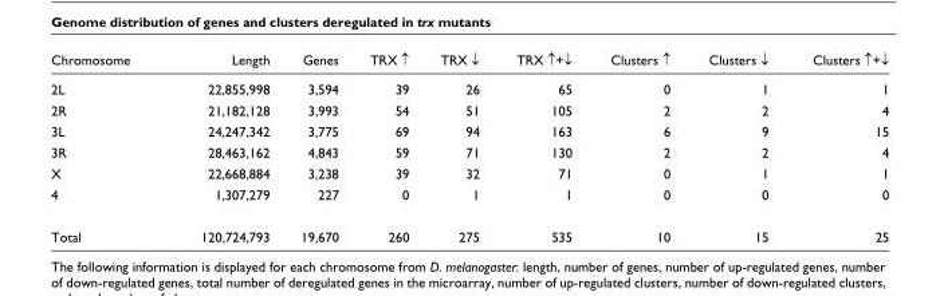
<table><thead><tr><td>Chromosome</td><td>Length</td><td>Genes</td><td>TRX ↑</td><td>TRX ↓</td><td>TRX ↑+↓</td><td>Clusters ↑</td><td>Clusters ↓</td><td>Clusters ↑+↓</td></tr></thead><tbody><tr><td>2L</td><td>22,855,998</td><td>3,594</td><td>39</td><td>26</td><td>65</td><td>0</td><td>1</td><td>1</td></tr><tr><td>2R</td><td>21,182,128</td><td>3,993</td><td>54</td><td>51</td><td>105</td><td>2</td><td>2</td><td>4</td></tr><tr><td>3L</td><td>24,247,342</td><td>3,775</td><td>69</td><td>94</td><td>163</td><td>6</td><td>9</td><td>15</td></tr><tr><td>3R</td><td>28,463,162</td><td>4,843</td><td>59</td><td>71</td><td>130</td><td>2</td><td>2</td><td>4</td></tr><tr><td>X</td><td>22,668,884</td><td>3,238</td><td>39</td><td>32</td><td>71</td><td>0</td><td>1</td><td>1</td></tr><tr><td>4</td><td>1,307,279</td><td>227</td><td>0</td><td>1</td><td>1</td><td>0</td><td>0</td><td>0</td></tr><tr><td>Total</td><td>120,724,793</td><td>19,670</td><td>260</td><td>275</td><td>535</td><td>10</td><td>15</td><td>25</td></tr></tbody></table>